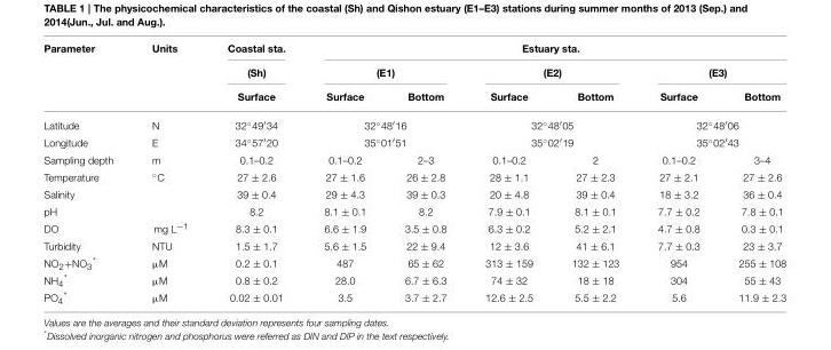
<table><thead><tr><td rowspan="3">Parameter</td><td rowspan="3">Units</td><td rowspan="3">Coastal sta. (Sh) Surface</td><td colspan="6">Estuary sta.</td></tr><tr><td colspan="2">(E1)</td><td colspan="2">(E2)</td><td colspan="2">(E3)</td></tr><tr><td>Surface</td><td>Bottom</td><td>Surface</td><td>Bottom</td><td>Surface</td><td>Bottom</td></tr></thead><tbody><tr><td>Latitude</td><td>N</td><td>32◦49′34</td><td colspan="2">32◦48′16</td><td colspan="2">32◦48′05</td><td colspan="2">32◦48′06</td></tr><tr><td>Longitude</td><td>E</td><td>34◦57′20</td><td colspan="2">35◦01′51</td><td colspan="2">35◦02′19</td><td colspan="2">35◦02′43</td></tr><tr><td>Sampling depth</td><td>m</td><td>0.1–0.2</td><td>0.1–0.2</td><td>2–3</td><td>0.1–0.2</td><td>2</td><td>0.1–0.2</td><td>3–4</td></tr><tr><td>Temperature</td><td>◦C</td><td>27 ± 2.6</td><td>27 ± 1.6</td><td>26 ± 2.8</td><td>28 ± 1.1</td><td>27 ± 2.3</td><td>27 ± 2.1</td><td>27 ± 2.6</td></tr><tr><td>Salinity</td><td></td><td>39 ± 0.4</td><td>29 ± 4.3</td><td>39 ± 0.3</td><td>20 ± 4.8</td><td>39 ± 0.4</td><td>18 ± 3.2</td><td>36 ± 0.4</td></tr><tr><td>pH</td><td></td><td>8.2</td><td>8.1 ± 0.1</td><td>8.2</td><td>7.9 ± 0.1</td><td>8.1 ± 0.1</td><td>7.7 ± 0.2</td><td>7.8 ± 0.1</td></tr><tr><td>DO</td><td>mg L<sup>−1</sup></td><td>8.3 ± 0.1</td><td>6.6 ± 1.9</td><td>3.5 ± 0.8</td><td>6.3 ± 0.2</td><td>5.2 ± 2.1</td><td>4.7 ± 0.8</td><td>0.3 ± 0.1</td></tr><tr><td>Turbidity</td><td>NTU</td><td>1.5 ± 1.7</td><td>5.6 ± 1.5</td><td>22 ± 9.4</td><td>12 ± 3.6</td><td>41 ± 6.1</td><td>7.7 ± 0.3</td><td>23 ± 3.7</td></tr><tr><td>NO2+NO3*</td><td>µM</td><td>0.2 ± 0.1</td><td>487</td><td>65 ± 62</td><td>313 ± 159</td><td>132 ± 123</td><td>954</td><td>255 ± 108</td></tr><tr><td>NH4*</td><td>µM</td><td>0.8 ± 0.2</td><td>28.0</td><td>6.7 ± 6.3</td><td>74 ± 32</td><td>18 ± 18</td><td>304</td><td>55 ± 43</td></tr><tr><td>PO4*</td><td>µM</td><td>0.02 ± 0.01</td><td>3.5</td><td>3.7 ± 2.7</td><td>12.6 ± 2.5</td><td>5.5 ± 2.2</td><td>5.6</td><td>11.9 ± 2.3</td></tr></tbody></table>